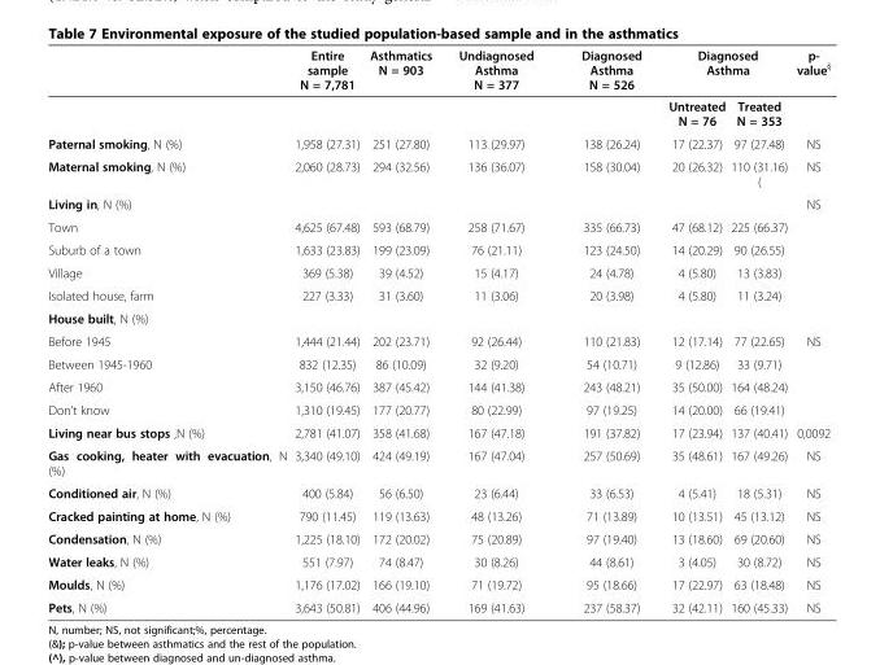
<table><thead><tr><td rowspan="2"></td><td rowspan="2">Entire sample N = 7,781</td><td rowspan="2">Asthmatics N = 903</td><td rowspan="2">Undiagnosed Asthma N = 377</td><td rowspan="2">Diagnosed Asthma N = 526</td><td colspan="2">Diagnosed Asthma</td><td rowspan="2">p- value<sup>§</sup></td></tr><tr><td>Untreated N = 76</td><td>Treated N = 353</td></tr></thead><tbody><tr><td>Paternal smoking, N (%)</td><td>1,958 (27.31)</td><td>251 (27.80)</td><td>113 (29.97)</td><td>138 (26.24)</td><td>17 (22.37)</td><td>97 (27.48)</td><td>NS</td></tr><tr><td>Maternal smoking, N (%)</td><td>2,060 (28.73)</td><td>294 (32.56)</td><td>136 (36.07)</td><td>158 (30.04)</td><td>20 (26.32)</td><td>110 (31.16) (</td><td>NS</td></tr><tr><td>Living in, N (%)</td><td></td><td></td><td></td><td></td><td></td><td></td><td>NS</td></tr><tr><td>Town</td><td>4,625 (67.48)</td><td>593 (68.79)</td><td>258 (71.67)</td><td>335 (66.73)</td><td>47 (68.12)</td><td>225 (66.37)</td><td></td></tr><tr><td>Suburb of a town</td><td>1,633 (23.83)</td><td>199 (23.09)</td><td>76 (21.11)</td><td>123 (24.50)</td><td>14 (20.29)</td><td>90 (26.55)</td><td></td></tr><tr><td>Village</td><td>369 (5.38)</td><td>39 (4.52)</td><td>15 (4.17)</td><td>24 (4.78)</td><td>4 (5.80)</td><td>13 (3.83)</td><td></td></tr><tr><td>Isolated house, farm</td><td>227 (3.33)</td><td>31 (3.60)</td><td>11 (3.06)</td><td>20 (3.98)</td><td>4 (5.80)</td><td>11 (3.24)</td><td></td></tr><tr><td colspan="8">House built, N (%)</td></tr><tr><td>Before 1945</td><td>1,444 (21.44)</td><td>202 (23.71)</td><td>92 (26.44)</td><td>110 (21.83)</td><td>12 (17.14)</td><td>77 (22.65)</td><td>NS</td></tr><tr><td>Between 1945-1960</td><td>832 (12.35)</td><td>86 (10.09)</td><td>32 (9.20)</td><td>54 (10.71)</td><td>9 (12.86)</td><td>33 (9.71)</td><td></td></tr><tr><td>After 1960</td><td>3,150 (46.76)</td><td>387 (45.42)</td><td>144 (41.38)</td><td>243 (48.21)</td><td>35 (50.00)</td><td>164 (48.24)</td><td></td></tr><tr><td>Don’t know</td><td>1,310 (19.45)</td><td>177 (20.77)</td><td>80 (22.99)</td><td>97 (19.25)</td><td>14 (20.00)</td><td>66 (19.41)</td><td></td></tr><tr><td>Living near bus stops ,N (%)</td><td>2,781 (41.07)</td><td>358 (41.68)</td><td>167 (47.18)</td><td>191 (37.82)</td><td>17 (23.94)</td><td>137 (40.41)</td><td>0,0092</td></tr><tr><td>Gas cooking, heater with evacuation, N (%)</td><td>3,340 (49.10)</td><td>424 (49.19)</td><td>167 (47.04)</td><td>257 (50.69)</td><td>35 (48.61)</td><td>167 (49.26)</td><td>NS</td></tr><tr><td>Conditioned air, N (%)</td><td>400 (5.84)</td><td>56 (6.50)</td><td>23 (6.44)</td><td>33 (6.53)</td><td>4 (5.41)</td><td>18 (5.31)</td><td>NS</td></tr><tr><td>Cracked painting at home, N (%)</td><td>790 (11.45)</td><td>119 (13.63)</td><td>48 (13.26)</td><td>71 (13.89)</td><td>10 (13.51)</td><td>45 (13.12)</td><td>NS</td></tr><tr><td>Condensation, N (%)</td><td>1,225 (18.10)</td><td>172 (20.02)</td><td>75 (20.89)</td><td>97 (19.40)</td><td>13 (18.60)</td><td>69 (20.60)</td><td>NS</td></tr><tr><td>Water leaks, N (%)</td><td>551 (7.97)</td><td>74 (8.47)</td><td>30 (8.26)</td><td>44 (8.61)</td><td>3 (4.05)</td><td>30 (8.72)</td><td>NS</td></tr><tr><td>Moulds, N (%)</td><td>1,176 (17.02)</td><td>166 (19.10)</td><td>71 (19.72)</td><td>95 (18.66)</td><td>17 (22.97)</td><td>63 (18.48)</td><td>NS</td></tr><tr><td>Pets, N (%)</td><td>3,643 (50.81)</td><td>406 (44.96)</td><td>169 (41.63)</td><td>237 (58.37)</td><td>32 (42.11)</td><td>160 (45.33)</td><td>NS</td></tr></tbody></table>